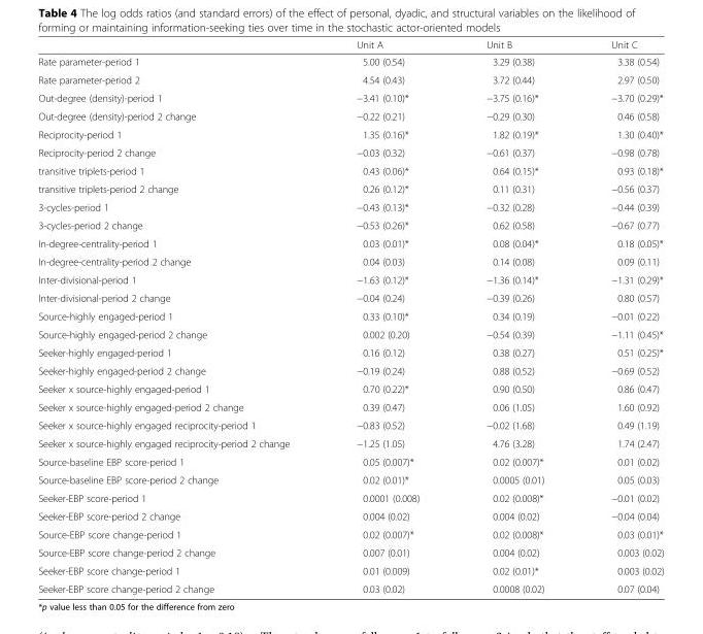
<table><thead><tr><td></td><td>Unit A</td><td>Unit B</td><td>Unit C</td></tr></thead><tbody><tr><td>Rate parameter-period 1</td><td>5.00 (0.54)</td><td>3.29 (0.38)</td><td>3.38 (0.54)</td></tr><tr><td>Rate parameter-period 2</td><td>4.54 (0.43)</td><td>3.72 (0.44)</td><td>2.97 (0.50)</td></tr><tr><td>Out-degree (density)-period 1</td><td>−3.41 (0.10)*</td><td>−3.75 (0.16)*</td><td>−3.70 (0.29)*</td></tr><tr><td>Out-degree (density)-period 2 change</td><td>−0.22 (0.21)</td><td>−0.29 (0.30)</td><td>0.46 (0.58)</td></tr><tr><td>Reciprocity-period 1</td><td>1.35 (0.16)*</td><td>1.82 (0.19)*</td><td>1.30 (0.40)*</td></tr><tr><td>Reciprocity-period 2 change</td><td>−0.03 (0.32)</td><td>−0.61 (0.37)</td><td>−0.98 (0.78)</td></tr><tr><td>transitive triplets-period 1</td><td>0.43 (0.06)*</td><td>0.64 (0.15)*</td><td>0.93 (0.18)*</td></tr><tr><td>transitive triplets-period 2 change</td><td>0.26 (0.12)*</td><td>0.11 (0.31)</td><td>−0.56 (0.37)</td></tr><tr><td>3-cycles-period 1</td><td>−0.43 (0.13)*</td><td>−0.32 (0.28)</td><td>−0.44 (0.39)</td></tr><tr><td>3-cycles-period 2 change</td><td>−0.53 (0.26)*</td><td>0.62 (0.58)</td><td>−0.67 (0.77)</td></tr><tr><td>In-degree-centrality-period 1</td><td>0.03 (0.01)*</td><td>0.08 (0.04)*</td><td>0.18 (0.05)*</td></tr><tr><td>In-degree-centrality-period 2 change</td><td>0.04 (0.03)</td><td>0.14 (0.08)</td><td>0.09 (0.11)</td></tr><tr><td>Inter-divisional-period 1</td><td>−1.63 (0.12)*</td><td>−1.36 (0.14)*</td><td>−1.31 (0.29)*</td></tr><tr><td>Inter-divisional-period 2 change</td><td>−0.04 (0.24)</td><td>−0.39 (0.26)</td><td>0.80 (0.57)</td></tr><tr><td>Source-highly engaged-period 1</td><td>0.33 (0.10)*</td><td>0.34 (0.19)</td><td>−0.01 (0.22)</td></tr><tr><td>Source-highly engaged-period 2 change</td><td>0.002 (0.20)</td><td>−0.54 (0.39)</td><td>−1.11 (0.45)*</td></tr><tr><td>Seeker-highly engaged-period 1</td><td>0.16 (0.12)</td><td>0.38 (0.27)</td><td>0.51 (0.25)*</td></tr><tr><td>Seeker-highly engaged-period 2 change</td><td>−0.19 (0.24)</td><td>0.88 (0.52)</td><td>−0.69 (0.52)</td></tr><tr><td>Seeker x source-highly engaged-period 1</td><td>0.70 (0.22)*</td><td>0.90 (0.50)</td><td>0.86 (0.47)</td></tr><tr><td>Seeker x source-highly engaged-period 2 change</td><td>0.39 (0.47)</td><td>0.06 (1.05)</td><td>1.60 (0.92)</td></tr><tr><td>Seeker x source-highly engaged reciprocity-period 1</td><td>−0.83 (0.52)</td><td>−0.02 (1.68)</td><td>0.49 (1.19)</td></tr><tr><td>Seeker x source-highly engaged reciprocity-period 2 change</td><td>−1.25 (1.05)</td><td>4.76 (3.28)</td><td>1.74 (2.47)</td></tr><tr><td>Source-baseline EBP score-period 1</td><td>0.05 (0.007)*</td><td>0.02 (0.007)*</td><td>0.01 (0.02)</td></tr><tr><td>Source-baseline EBP score-period 2 change</td><td>0.02 (0.01)*</td><td>0.0005 (0.01)</td><td>0.05 (0.03)</td></tr><tr><td>Seeker-EBP score-period 1</td><td>0.0001 (0.008)</td><td>0.02 (0.008)*</td><td>−0.01 (0.02)</td></tr><tr><td>Seeker-EBP score-period 2 change</td><td>0.004 (0.02)</td><td>0.004 (0.02)</td><td>−0.04 (0.04)</td></tr><tr><td>Source-EBP score change-period 1</td><td>0.02 (0.007)*</td><td>0.02 (0.008)*</td><td>0.03 (0.01)*</td></tr><tr><td>Source-EBP score change-period 2 change</td><td>0.007 (0.01)</td><td>0.004 (0.02)</td><td>0.003 (0.02)</td></tr><tr><td>Seeker-EBP score change-period 1</td><td>0.01 (0.009)</td><td>0.02 (0.01)*</td><td>0.003 (0.02)</td></tr><tr><td>Seeker-EBP score change-period 2 change</td><td>0.03 (0.02)</td><td>0.0008 (0.02)</td><td>0.07 (0.04)</td></tr></tbody></table>